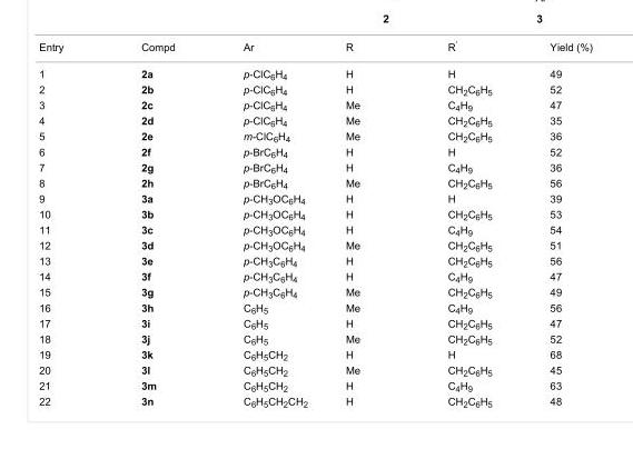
<table><tbody><tr><td>Entry</td><td>Compd</td><td>Ar</td><td>R</td><td>R<sup>’</sup></td><td>Yield (%)</td></tr><tr><td>1</td><td>2a</td><td>p-ClC<sub>6</sub>H<sub>4</sub></td><td>H</td><td>H</td><td>49</td></tr><tr><td>2</td><td>2b</td><td>p-ClC<sub>6</sub>H<sub>4</sub></td><td>H</td><td>CH<sub>2</sub>C<sub>6</sub>H<sub>5</sub></td><td>52</td></tr><tr><td>3</td><td>2c</td><td>p-ClC<sub>6</sub>H<sub>4</sub></td><td>Me</td><td>C<sub>4</sub>H<sub>9</sub></td><td>47</td></tr><tr><td>4</td><td>2d</td><td>p-ClC<sub>6</sub>H<sub>4</sub></td><td>Me</td><td>CH<sub>2</sub>C<sub>6</sub>H<sub>5</sub></td><td>35</td></tr><tr><td>5</td><td>2e</td><td>m-ClC<sub>6</sub>H<sub>4</sub></td><td>Me</td><td>CH<sub>2</sub>C<sub>6</sub>H<sub>5</sub></td><td>36</td></tr><tr><td>6</td><td>2f</td><td>p-BrC<sub>6</sub>H<sub>4</sub></td><td>H</td><td>H</td><td>52</td></tr><tr><td>7</td><td>2g</td><td>p-BrC<sub>6</sub>H<sub>4</sub></td><td>H</td><td>C<sub>4</sub>H<sub>9</sub></td><td>36</td></tr><tr><td>8</td><td>2h</td><td>p-BrC<sub>6</sub>H<sub>4</sub></td><td>Me</td><td>CH<sub>2</sub>C<sub>6</sub>H<sub>5</sub></td><td>56</td></tr><tr><td>9</td><td>3a</td><td>p-CH<sub>3</sub>OC<sub>6</sub>H<sub>4</sub></td><td>H</td><td>H</td><td>39</td></tr><tr><td>10</td><td>3b</td><td>p-CH<sub>3</sub>OC<sub>6</sub>H<sub>4</sub></td><td>H</td><td>CH<sub>2</sub>C<sub>6</sub>H<sub>5</sub></td><td>53</td></tr><tr><td>11</td><td>3c</td><td>p-CH<sub>3</sub>OC<sub>6</sub>H<sub>4</sub></td><td>H</td><td>C<sub>4</sub>H<sub>9</sub></td><td>54</td></tr><tr><td>12</td><td>3d</td><td>p-CH<sub>3</sub>OC<sub>6</sub>H<sub>4</sub></td><td>Me</td><td>CH<sub>2</sub>C<sub>6</sub>H<sub>5</sub></td><td>51</td></tr><tr><td>13</td><td>3e</td><td>p-CH<sub>3</sub>C<sub>6</sub>H<sub>4</sub></td><td>H</td><td>CH<sub>2</sub>C<sub>6</sub>H<sub>5</sub></td><td>56</td></tr><tr><td>14</td><td>3f</td><td>p-CH<sub>3</sub>C<sub>6</sub>H<sub>4</sub></td><td>H</td><td>C<sub>4</sub>H<sub>9</sub></td><td>47</td></tr><tr><td>15</td><td>3g</td><td>p-CH<sub>3</sub>C<sub>6</sub>H<sub>4</sub></td><td>Me</td><td>CH<sub>2</sub>C<sub>6</sub>H<sub>5</sub></td><td>49</td></tr><tr><td>16</td><td>3h</td><td>C<sub>6</sub>H<sub>5</sub></td><td>Me</td><td>C<sub>4</sub>H<sub>9</sub></td><td>56</td></tr><tr><td>17</td><td>3i</td><td>C<sub>6</sub>H<sub>5</sub></td><td>H</td><td>CH<sub>2</sub>C<sub>6</sub>H<sub>5</sub></td><td>47</td></tr><tr><td>18</td><td>3j</td><td>C<sub>6</sub>H<sub>5</sub></td><td>Me</td><td>CH<sub>2</sub>C<sub>6</sub>H<sub>5</sub></td><td>52</td></tr><tr><td>19</td><td>3k</td><td>C<sub>6</sub>H<sub>5</sub>CH<sub>2</sub></td><td>H</td><td>H</td><td>68</td></tr><tr><td>20</td><td>3l</td><td>C<sub>6</sub>H<sub>5</sub>CH<sub>2</sub></td><td>Me</td><td>CH<sub>2</sub>C<sub>6</sub>H<sub>5</sub></td><td>45</td></tr><tr><td>21</td><td>3m</td><td>C<sub>6</sub>H<sub>5</sub>CH<sub>2</sub></td><td>H</td><td>C<sub>4</sub>H<sub>9</sub></td><td>63</td></tr><tr><td>22</td><td>3n</td><td>C<sub>6</sub>H<sub>5</sub>CH<sub>2</sub>CH<sub>2</sub></td><td>H</td><td>CH<sub>2</sub>C<sub>6</sub>H<sub>5</sub></td><td>48</td></tr></tbody></table>